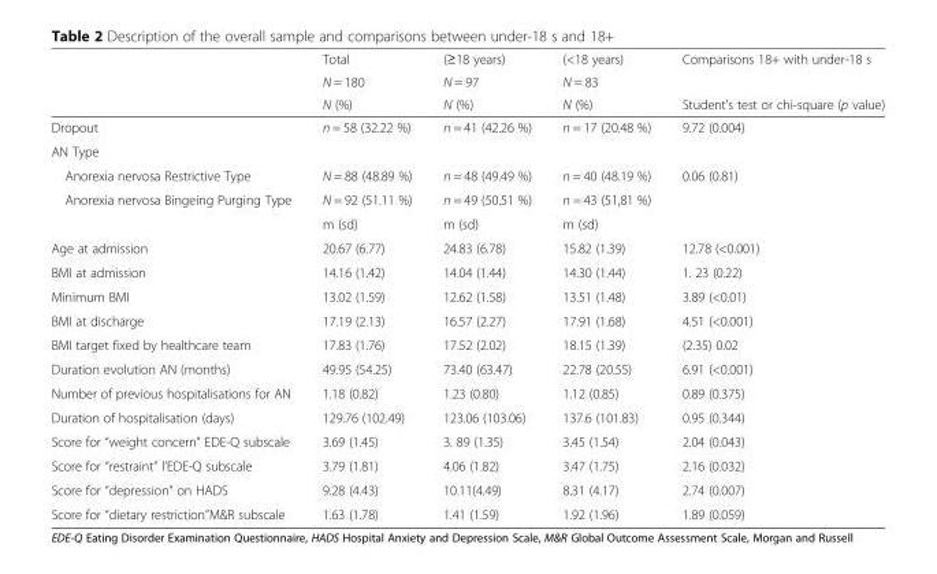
<table><thead><tr><td rowspan="3"></td><td rowspan="3">Total N = 180 N (%)</td><td rowspan="3">(≥18 years) N = 97 N (%)</td><td rowspan="3">(&lt;18 years) N = 83 N (%)</td><td rowspan="3">Comparisons 18+ with under-18 s Student’s test or chi-square (p value)</td></tr><tr></tr><tr></tr></thead><tbody><tr><td>Dropout</td><td>n = 58 (32.22 %)</td><td>n = 41 (42.26 %)</td><td>n = 17 (20.48 %)</td><td>9.72 (0.004)</td></tr><tr><td colspan="5">AN Type</td></tr><tr><td>Anorexia nervosa Restrictive Type</td><td>N = 88 (48.89 %)</td><td>n = 48 (49.49 %)</td><td>n = 40 (48.19 %)</td><td rowspan="2">0.06 (0.81)</td></tr><tr><td rowspan="2">Anorexia nervosa Bingeing Purging Type</td><td>N = 92 (51.11 %)</td><td>n = 49 (50.51 %)</td><td>n = 43 (51,81 %)</td></tr><tr><td>m (sd)</td><td>m (sd)</td><td>m (sd)</td><td></td></tr><tr><td>Age at admission</td><td>20.67 (6.77)</td><td>24.83 (6.78)</td><td>15.82 (1.39)</td><td>12.78 (&lt;0.001)</td></tr><tr><td>BMI at admission</td><td>14.16 (1.42)</td><td>14.04 (1.44)</td><td>14.30 (1.44)</td><td>1. 23 (0.22)</td></tr><tr><td>Minimum BMI</td><td>13.02 (1.59)</td><td>12.62 (1.58)</td><td>13.51 (1.48)</td><td>3.89 (&lt;0.01)</td></tr><tr><td>BMI at discharge</td><td>17.19 (2.13)</td><td>16.57 (2.27)</td><td>17.91 (1.68)</td><td>4.51 (&lt;0.001)</td></tr><tr><td>BMI target fixed by healthcare team</td><td>17.83 (1.76)</td><td>17.52 (2.02)</td><td>18.15 (1.39)</td><td>(2.35) 0.02</td></tr><tr><td>Duration evolution AN (months)</td><td>49.95 (54.25)</td><td>73.40 (63.47)</td><td>22.78 (20.55)</td><td>6.91 (&lt;0.001)</td></tr><tr><td>Number of previous hospitalisations for AN</td><td>1.18 (0.82)</td><td>1.23 (0.80)</td><td>1.12 (0.85)</td><td>0.89 (0.375)</td></tr><tr><td>Duration of hospitalisation (days)</td><td>129.76 (102.49)</td><td>123.06 (103.06)</td><td>137.6 (101.83)</td><td>0.95 (0.344)</td></tr><tr><td>Score for “weight concern” EDE-Q subscale</td><td>3.69 (1.45)</td><td>3. 89 (1.35)</td><td>3.45 (1.54)</td><td>2.04 (0.043)</td></tr><tr><td>Score for “restraint” l’EDE-Q subscale</td><td>3.79 (1.81)</td><td>4.06 (1.82)</td><td>3.47 (1.75)</td><td>2.16 (0.032)</td></tr><tr><td>Score for “depression” on HADS</td><td>9.28 (4.43)</td><td>10.11(4.49)</td><td>8.31 (4.17)</td><td>2.74 (0.007)</td></tr><tr><td>Score for “dietary restriction”M&amp;R subscale</td><td>1.63 (1.78)</td><td>1.41 (1.59)</td><td>1.92 (1.96)</td><td>1.89 (0.059)</td></tr></tbody></table>